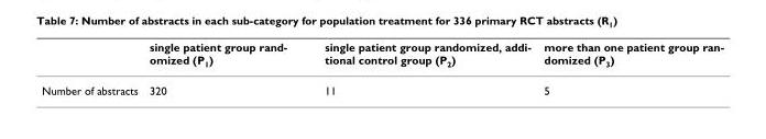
<table><thead><tr><td></td><td>single patient group rand- omized (P1)</td><td>single patient group randomized, addi- tional control group (P2)</td><td>more than one patient group ran- domized (P3)</td></tr></thead><tbody><tr><td>Number of abstracts</td><td>320</td><td>11</td><td>5</td></tr></tbody></table>